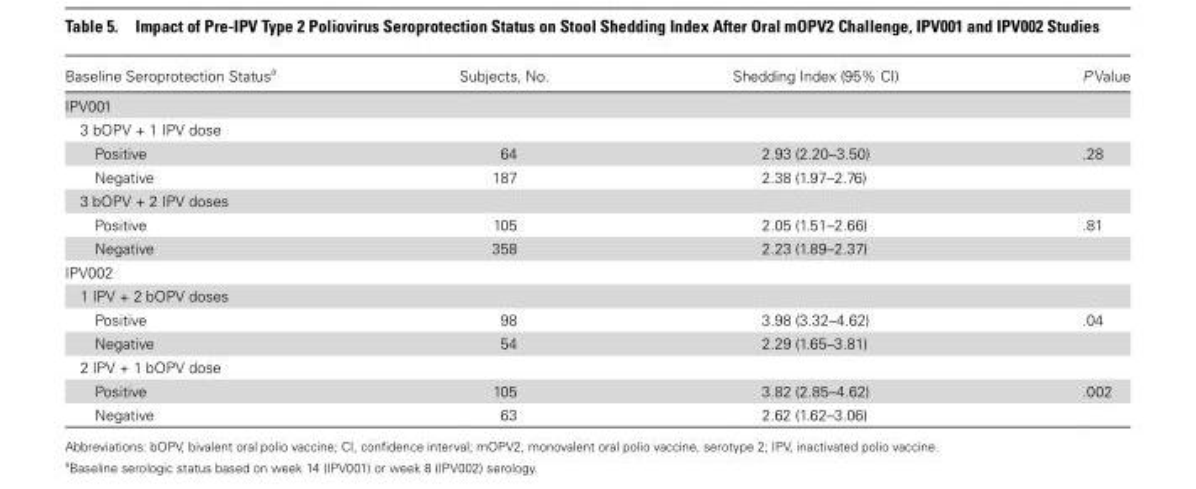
<table><thead><tr><td>Baseline Seroprotection Status<sup>a</sup></td><td>Subjects, No.</td><td>Shedding Index (95% CI)</td><td>P Value</td></tr></thead><tbody><tr><td colspan="4">IPV001</td></tr><tr><td colspan="4">3 bOPV + 1 IPV dose</td></tr><tr><td>Positive</td><td>64</td><td>2.93 (2.20–3.50)</td><td>.28</td></tr><tr><td>Negative</td><td>187</td><td>2.38 (1.97–2.76)</td><td></td></tr><tr><td colspan="4">3 bOPV + 2 IPV doses</td></tr><tr><td>Positive</td><td>105</td><td>2.05 (1.51–2.66)</td><td>.81</td></tr><tr><td>Negative</td><td>358</td><td>2.23 (1.89–2.37)</td><td></td></tr><tr><td colspan="4">IPV002</td></tr><tr><td colspan="4">1 IPV + 2 bOPV doses</td></tr><tr><td>Positive</td><td>98</td><td>3.98 (3.32–4.62)</td><td>.04</td></tr><tr><td>Negative</td><td>54</td><td>2.29 (1.65–3.81)</td><td></td></tr><tr><td colspan="4">2 IPV + 1 bOPV dose</td></tr><tr><td>Positive</td><td>105</td><td>3.82 (2.85–4.62)</td><td>.002</td></tr><tr><td>Negative</td><td>63</td><td>2.62 (1.62–3.06)</td><td></td></tr></tbody></table>